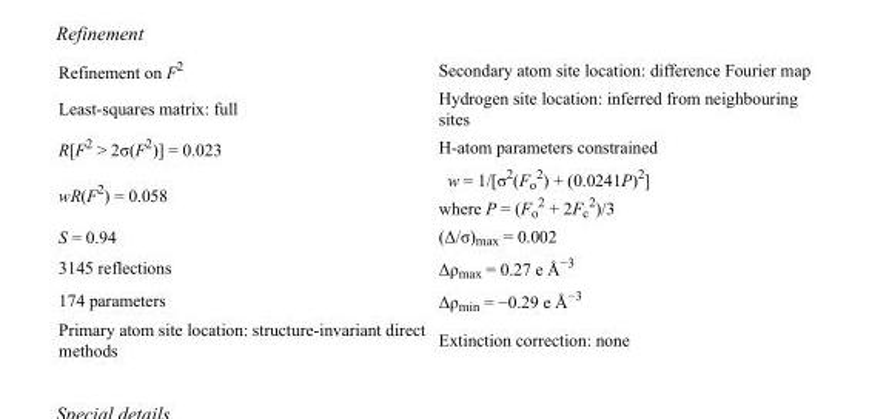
<table><tbody><tr><td>Refinement on F<sup>2</sup></td><td>Secondary atom site location: difference Fourier map</td></tr><tr><td>Least-squares matrix: full</td><td>Hydrogen site location: inferred from neighbouring sites</td></tr><tr><td>R[F<sup>2</sup> &gt; 2σ(F<sup>2</sup>)] = 0.023</td><td>H-atom parameters constrained</td></tr><tr><td>wR(F<sup>2</sup>) = 0.058</td><td>w = 1/[σ<sup>2</sup>(F<sub>o</sub> <sup>2</sup>) + (0.0241P)<sup>2</sup>] where P = (F<sub>o</sub> <sup>2</sup> + 2F<sub>c</sub> <sup>2</sup>)/3</td></tr><tr><td>S = 0.94</td><td>(Δ/σ)<sub>max</sub> = 0.002</td></tr><tr><td>3145 reflections</td><td>Δρ<sub>max</sub> = 0.27 e Å<sup>−3</sup></td></tr><tr><td>174 parameters</td><td>Δρ<sub>min</sub> = −0.29 e Å<sup>−3</sup></td></tr><tr><td>Primary atom site location: structure-invariant direct methods</td><td>Extinction correction: none</td></tr></tbody></table>